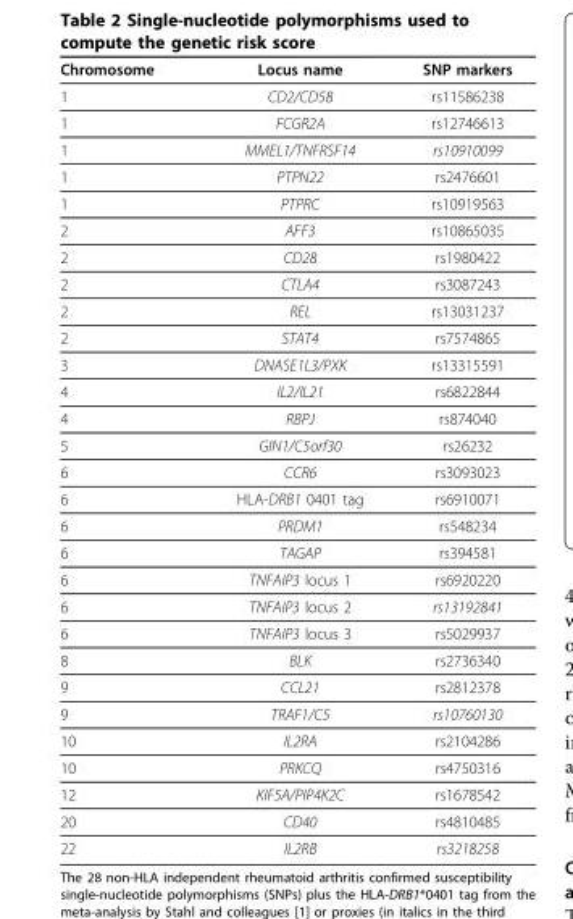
<table><thead><tr><td>Chromosome</td><td>Locus name</td><td>SNP markers</td></tr></thead><tbody><tr><td>1</td><td>CD2/CD58</td><td>rs11586238</td></tr><tr><td>1</td><td>FCGR2A</td><td>rs12746613</td></tr><tr><td>1</td><td>MMEL1/TNFRSF14</td><td>rs10910099</td></tr><tr><td>1</td><td>PTPN22</td><td>rs2476601</td></tr><tr><td>1</td><td>PTPRC</td><td>rs10919563</td></tr><tr><td>2</td><td>AFF3</td><td>rs10865035</td></tr><tr><td>2</td><td>CD28</td><td>rs1980422</td></tr><tr><td>2</td><td>CTLA4</td><td>rs3087243</td></tr><tr><td>2</td><td>REL</td><td>rs13031237</td></tr><tr><td>2</td><td>STAT4</td><td>rs7574865</td></tr><tr><td>3</td><td>DNASE1L3/PXK</td><td>rs13315591</td></tr><tr><td>4</td><td>IL2/IL21</td><td>rs6822844</td></tr><tr><td>4</td><td>RBPJ</td><td>rs874040</td></tr><tr><td>5</td><td>GIN1/C5orf30</td><td>rs26232</td></tr><tr><td>6</td><td>CCR6</td><td>rs3093023</td></tr><tr><td>6</td><td>HLA-DRB1 0401 tag</td><td>rs6910071</td></tr><tr><td>6</td><td>PRDM1</td><td>rs548234</td></tr><tr><td>6</td><td>TAGAP</td><td>rs394581</td></tr><tr><td>6</td><td>TNFAIP3 locus 1</td><td>rs6920220</td></tr><tr><td>6</td><td>TNFAIP3 locus 2</td><td>rs13192841</td></tr><tr><td>6</td><td>TNFAIP3 locus 3</td><td>rs5029937</td></tr><tr><td>8</td><td>BLK</td><td>rs2736340</td></tr><tr><td>9</td><td>CCL21</td><td>rs2812378</td></tr><tr><td>9</td><td>TRAF1/C5</td><td>rs10760130</td></tr><tr><td>10</td><td>IL2RA</td><td>rs2104286</td></tr><tr><td>10</td><td>PRKCQ</td><td>rs4750316</td></tr><tr><td>12</td><td>KIF5A/PIP4K2C</td><td>rs1678542</td></tr><tr><td>20</td><td>CD40</td><td>rs4810485</td></tr><tr><td>22</td><td>IL2RB</td><td>rs3218258</td></tr></tbody></table>